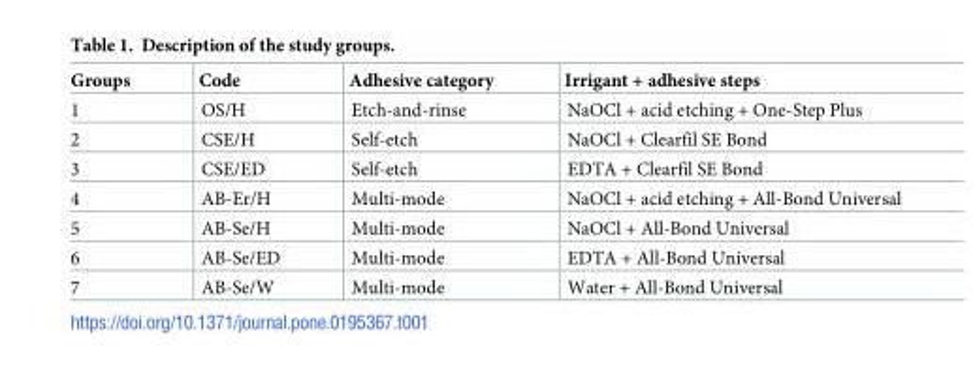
<table><thead><tr><td>Groups</td><td>Code</td><td>Adhesive category</td><td>Irrigant + adhesive steps</td></tr></thead><tbody><tr><td>1</td><td>OS/H</td><td>Etch-and-rinse</td><td>NaOCl + acid etching + One-Step Plus</td></tr><tr><td>2</td><td>CSE/H</td><td>Self-etch</td><td>NaOCl + Clearfil SE Bond</td></tr><tr><td>3</td><td>CSE/ED</td><td>Self-etch</td><td>EDTA + Clearfil SE Bond</td></tr><tr><td>4</td><td>AB-Er/H</td><td>Multi-mode</td><td>NaOCl + acid etching + All-Bond Universal</td></tr><tr><td>5</td><td>AB-Se/H</td><td>Multi-mode</td><td>NaOCl + All-Bond Universal</td></tr><tr><td>6</td><td>AB-Se/ED</td><td>Multi-mode</td><td>EDTA + All-Bond Universal</td></tr><tr><td>7</td><td>AB-Se/W</td><td>Multi-mode</td><td>Water + All-Bond Universal</td></tr></tbody></table>